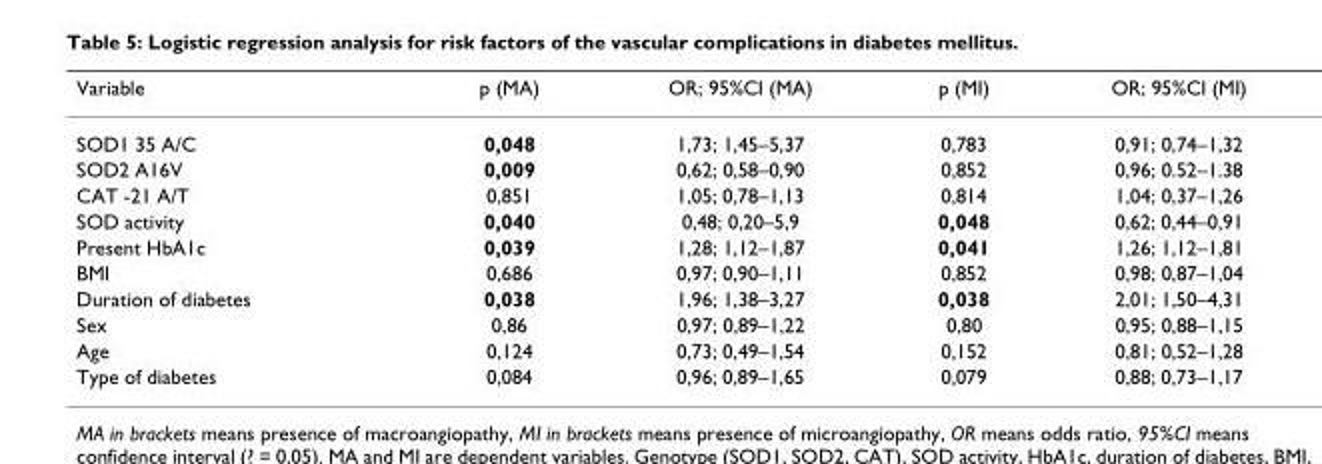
<table><thead><tr><td>Variable</td><td>p (MA)</td><td>OR; 95%CI (MA)</td><td>p (MI)</td><td>OR; 95%CI (MI)</td></tr></thead><tbody><tr><td>SOD1 35 A/C</td><td>0,048</td><td>1,73; 1,45–5,37</td><td>0,783</td><td>0,91; 0,74–1,32</td></tr><tr><td>SOD2 A16V</td><td>0,009</td><td>0,62; 0,58–0,90</td><td>0,852</td><td>0,96; 0.52–1.38</td></tr><tr><td>CAT -21 A/T</td><td>0,851</td><td>1,05; 0,78–1,13</td><td>0,814</td><td>1,04; 0,37–1,26</td></tr><tr><td>SOD activity</td><td>0,040</td><td>0,48; 0,20–5,9</td><td>0,048</td><td>0,62; 0,44–0,91</td></tr><tr><td>Present HbA1c</td><td>0,039</td><td>1,28; 1,12–1,87</td><td>0,041</td><td>1,26; 1,12–1,81</td></tr><tr><td>BMI</td><td>0,686</td><td>0,97; 0,90–1,11</td><td>0,852</td><td>0,98; 0,87–1,04</td></tr><tr><td>Duration of diabetes</td><td>0,038</td><td>1,96; 1,38–3,27</td><td>0,038</td><td>2,01; 1,50–4,31</td></tr><tr><td>Sex</td><td>0,86</td><td>0,97; 0,89–1,22</td><td>0,80</td><td>0,95; 0,88–1,15</td></tr><tr><td>Age</td><td>0,124</td><td>0,73; 0,49–1,54</td><td>0,152</td><td>0,81; 0,52–1,28</td></tr><tr><td>Type of diabetes</td><td>0,084</td><td>0,96; 0,89–1,65</td><td>0,079</td><td>0,88; 0,73–1,17</td></tr></tbody></table>